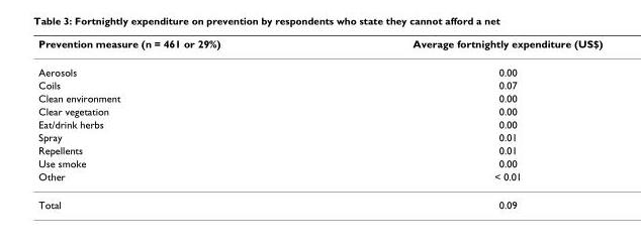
<table><thead><tr><td>Prevention measure (n = 461 or 29%)</td><td>Average fortnightly expenditure (US$)</td></tr></thead><tbody><tr><td>Aerosols</td><td>0.00</td></tr><tr><td>Coils</td><td>0.07</td></tr><tr><td>Clean environment</td><td>0.00</td></tr><tr><td>Clear vegetation</td><td>0.00</td></tr><tr><td>Eat/drink herbs</td><td>0.00</td></tr><tr><td>Spray</td><td>0.01</td></tr><tr><td>Repellents</td><td>0.01</td></tr><tr><td>Use smoke</td><td>0.00</td></tr><tr><td>Other</td><td>&lt; 0.01</td></tr><tr><td>Total</td><td>0.09</td></tr></tbody></table>